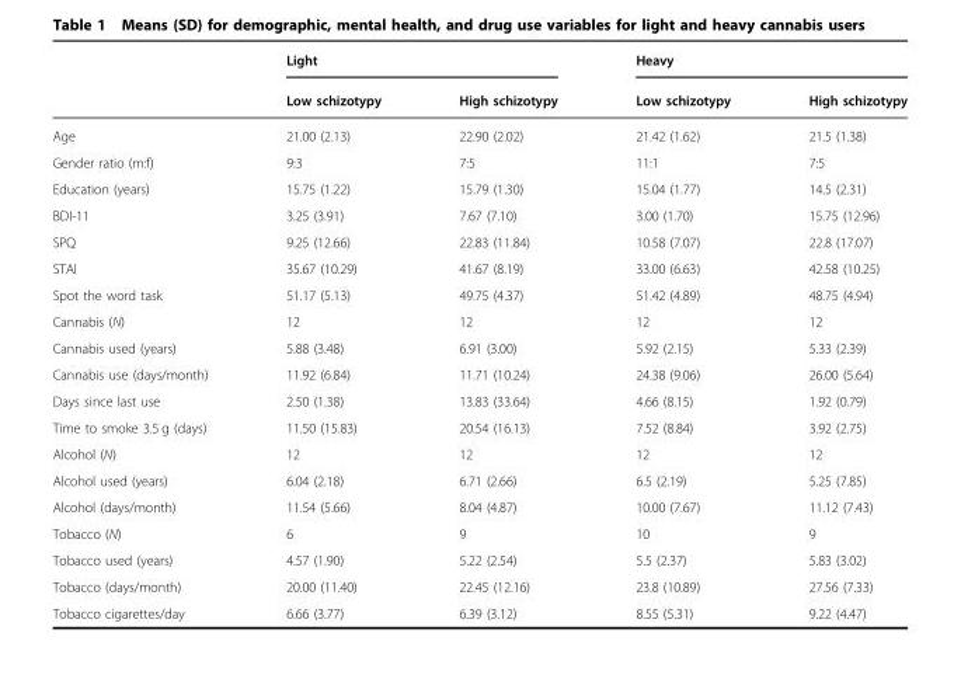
<table><thead><tr><td rowspan="2"></td><td colspan="2">Light</td><td colspan="2">Heavy</td></tr><tr><td>Low schizotypy</td><td>High schizotypy</td><td>Low schizotypy</td><td>High schizotypy</td></tr></thead><tbody><tr><td>Age</td><td>21.00 (2.13)</td><td>22.90 (2.02)</td><td>21.42 (1.62)</td><td>21.5 (1.38)</td></tr><tr><td>Gender ratio (m:f)</td><td>9:3</td><td>7:5</td><td>11:1</td><td>7:5</td></tr><tr><td>Education (years)</td><td>15.75 (1.22)</td><td>15.79 (1.30)</td><td>15.04 (1.77)</td><td>14.5 (2.31)</td></tr><tr><td>BDI-11</td><td>3.25 (3.91)</td><td>7.67 (7.10)</td><td>3.00 (1.70)</td><td>15.75 (12.96)</td></tr><tr><td>SPQ</td><td>9.25 (12.66)</td><td>22.83 (11.84)</td><td>10.58 (7.07)</td><td>22.8 (17.07)</td></tr><tr><td>STAI</td><td>35.67 (10.29)</td><td>41.67 (8.19)</td><td>33.00 (6.63)</td><td>42.58 (10.25)</td></tr><tr><td>Spot the word task</td><td>51.17 (5.13)</td><td>49.75 (4.37)</td><td>51.42 (4.89)</td><td>48.75 (4.94)</td></tr><tr><td>Cannabis (N)</td><td>12</td><td>12</td><td>12</td><td>12</td></tr><tr><td>Cannabis used (years)</td><td>5.88 (3.48)</td><td>6.91 (3.00)</td><td>5.92 (2.15)</td><td>5.33 (2.39)</td></tr><tr><td>Cannabis use (days/month)</td><td>11.92 (6.84)</td><td>11.71 (10.24)</td><td>24.38 (9.06)</td><td>26.00 (5.64)</td></tr><tr><td>Days since last use</td><td>2.50 (1.38)</td><td>13.83 (33.64)</td><td>4.66 (8.15)</td><td>1.92 (0.79)</td></tr><tr><td>Time to smoke 3.5 g (days)</td><td>11.50 (15.83)</td><td>20.54 (16.13)</td><td>7.52 (8.84)</td><td>3.92 (2.75)</td></tr><tr><td>Alcohol (N)</td><td>12</td><td>12</td><td>12</td><td>12</td></tr><tr><td>Alcohol used (years)</td><td>6.04 (2.18)</td><td>6.71 (2.66)</td><td>6.5 (2.19)</td><td>5.25 (7.85)</td></tr><tr><td>Alcohol (days/month)</td><td>11.54 (5.66)</td><td>8.04 (4.87)</td><td>10.00 (7.67)</td><td>11.12 (7.43)</td></tr><tr><td>Tobacco (N)</td><td>6</td><td>9</td><td>10</td><td>9</td></tr><tr><td>Tobacco used (years)</td><td>4.57 (1.90)</td><td>5.22 (2.54)</td><td>5.5 (2.37)</td><td>5.83 (3.02)</td></tr><tr><td>Tobacco (days/month)</td><td>20.00 (11.40)</td><td>22.45 (12.16)</td><td>23.8 (10.89)</td><td>27.56 (7.33)</td></tr><tr><td>Tobacco cigarettes/day</td><td>6.66 (3.77)</td><td>6.39 (3.12)</td><td>8.55 (5.31)</td><td>9.22 (4.47)</td></tr></tbody></table>